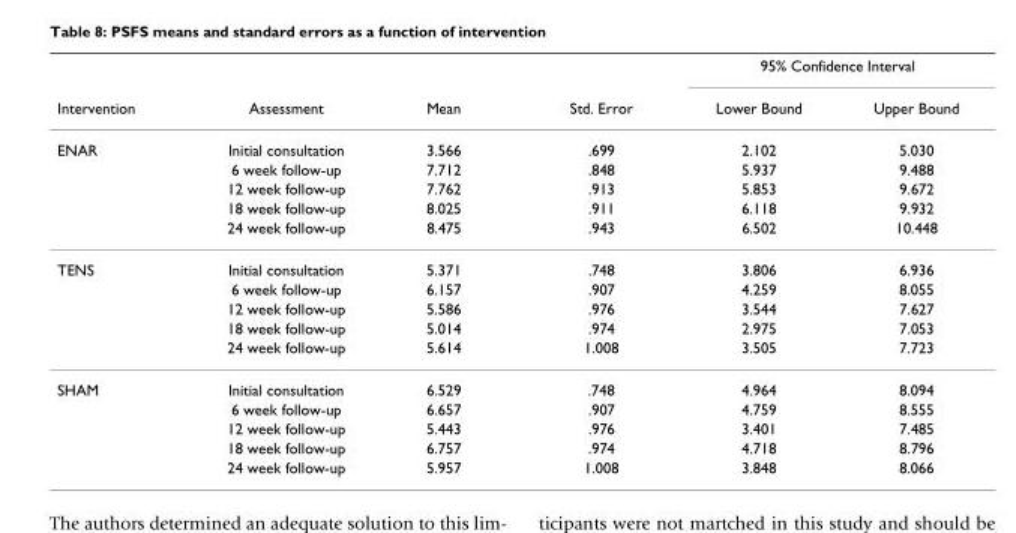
<table><thead><tr><td rowspan="2">Intervention</td><td rowspan="2">Assessment</td><td rowspan="2">Mean</td><td rowspan="2">Std. Error</td><td colspan="2">95% Confidence Interval</td></tr><tr><td>Lower Bound</td><td>Upper Bound</td></tr></thead><tbody><tr><td rowspan="5">ENAR</td><td>Initial consultation</td><td>3.566</td><td>.699</td><td>2.102</td><td>5.030</td></tr><tr><td>6 week follow-up</td><td>7.712</td><td>.848</td><td>5.937</td><td>9.488</td></tr><tr><td>12 week follow-up</td><td>7.762</td><td>.913</td><td>5.853</td><td>9.672</td></tr><tr><td>18 week follow-up</td><td>8.025</td><td>.911</td><td>6.118</td><td>9.932</td></tr><tr><td>24 week follow-up</td><td>8.475</td><td>.943</td><td>6.502</td><td>10.448</td></tr><tr><td rowspan="5">TENS</td><td>Initial consultation</td><td>5.371</td><td>.748</td><td>3.806</td><td>6.936</td></tr><tr><td>6 week follow-up</td><td>6.157</td><td>.907</td><td>4.259</td><td>8.055</td></tr><tr><td>12 week follow-up</td><td>5.586</td><td>.976</td><td>3.544</td><td>7.627</td></tr><tr><td>18 week follow-up</td><td>5.014</td><td>.974</td><td>2.975</td><td>7.053</td></tr><tr><td>24 week follow-up</td><td>5.614</td><td>1.008</td><td>3.505</td><td>7.723</td></tr><tr><td rowspan="5">SHAM</td><td>Initial consultation</td><td>6.529</td><td>.748</td><td>4.964</td><td>8.094</td></tr><tr><td>6 week follow-up</td><td>6.657</td><td>.907</td><td>4.759</td><td>8.555</td></tr><tr><td>12 week follow-up</td><td>5.443</td><td>.976</td><td>3.401</td><td>7.485</td></tr><tr><td>18 week follow-up</td><td>6.757</td><td>.974</td><td>4.718</td><td>8.796</td></tr><tr><td>24 week follow-up</td><td>5.957</td><td>1.008</td><td>3.848</td><td>8.066</td></tr></tbody></table>